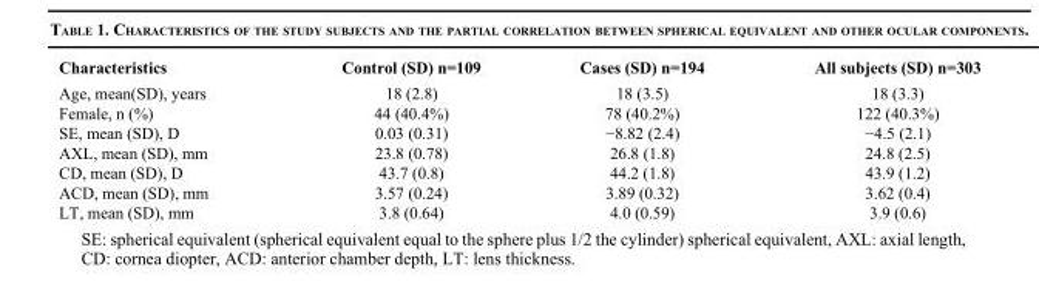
<table><tbody><tr><td>Characteristics</td><td>Control (SD) n=109</td><td>Cases (SD) n=194</td><td>All subjects (SD) n=303</td></tr><tr><td>Age, mean(SD), years</td><td>18 (2.8)</td><td>18 (3.5)</td><td>18 (3.3)</td></tr><tr><td>Female, n (%)</td><td>44 (40.4%)</td><td>78 (40.2%)</td><td>122 (40.3%)</td></tr><tr><td>SE, mean (SD), D</td><td>0.03 (0.31)</td><td>−8.82 (2.4)</td><td>−4.5 (2.1)</td></tr><tr><td>AXL, mean (SD), mm</td><td>23.8 (0.78)</td><td>26.8 (1.8)</td><td>24.8 (2.5)</td></tr><tr><td>CD, mean (SD), D</td><td>43.7 (0.8)</td><td>44.2 (1.8)</td><td>43.9 (1.2)</td></tr><tr><td>ACD, mean (SD), mm</td><td>3.57 (0.24)</td><td>3.89 (0.32)</td><td>3.62 (0.4)</td></tr><tr><td>LT, mean (SD), mm</td><td>3.8 (0.64)</td><td>4.0 (0.59)</td><td>3.9 (0.6)</td></tr></tbody></table>